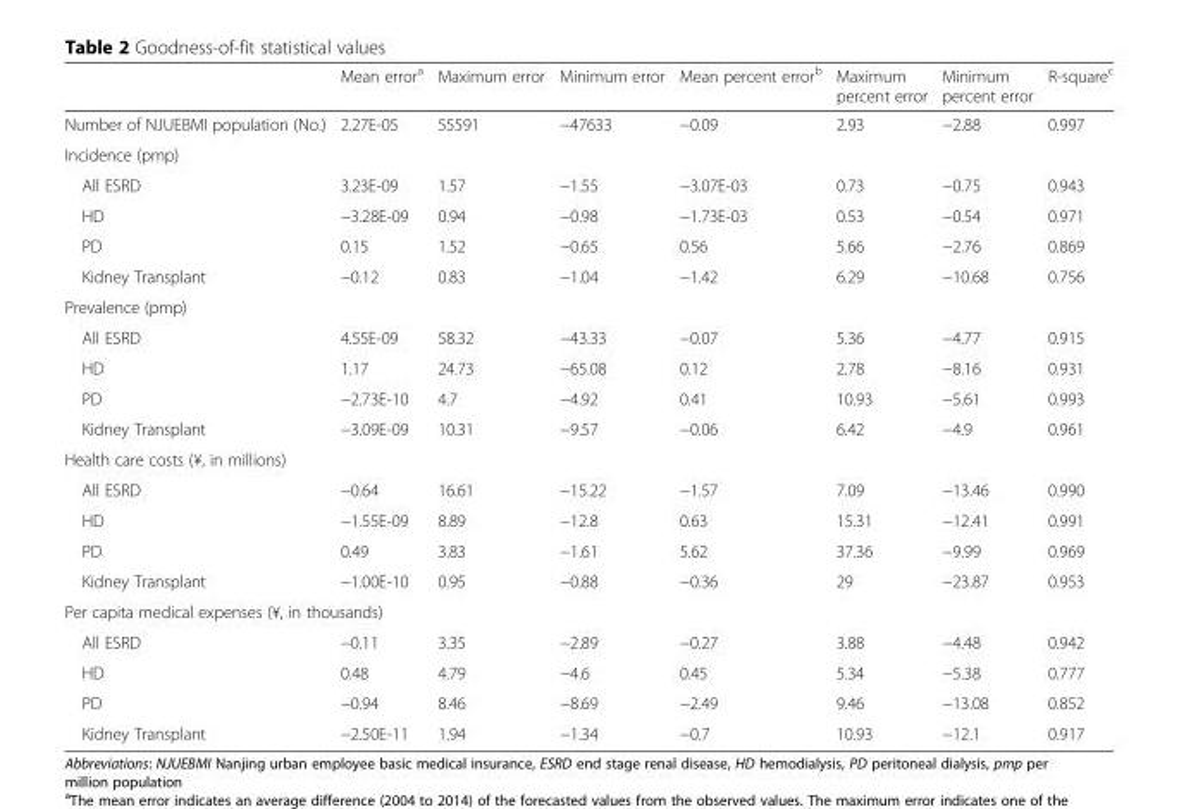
<table><thead><tr><td></td><td>Mean error<sup>a</sup></td><td>Maximum error</td><td>Minimum error</td><td>Mean percent error<sup>b</sup></td><td>Maximum percent error</td><td>Minimum percent error</td><td>R-square<sup>c</sup></td></tr></thead><tbody><tr><td>Number of NJUEBMI population (No.)</td><td>2.27E-05</td><td>55591</td><td>−47633</td><td>−0.09</td><td>2.93</td><td>−2.88</td><td>0.997</td></tr><tr><td colspan="8">Incidence (pmp)</td></tr><tr><td>All ESRD</td><td>3.23E-09</td><td>1.57</td><td>−1.55</td><td>−3.07E-03</td><td>0.73</td><td>−0.75</td><td>0.943</td></tr><tr><td>HD</td><td>−3.28E-09</td><td>0.94</td><td>−0.98</td><td>−1.73E-03</td><td>0.53</td><td>−0.54</td><td>0.971</td></tr><tr><td>PD</td><td>0.15</td><td>1.52</td><td>−0.65</td><td>0.56</td><td>5.66</td><td>−2.76</td><td>0.869</td></tr><tr><td>Kidney Transplant</td><td>−0.12</td><td>0.83</td><td>−1.04</td><td>−1.42</td><td>6.29</td><td>−10.68</td><td>0.756</td></tr><tr><td colspan="8">Prevalence (pmp)</td></tr><tr><td>All ESRD</td><td>4.55E-09</td><td>58.32</td><td>−43.33</td><td>−0.07</td><td>5.36</td><td>−4.77</td><td>0.915</td></tr><tr><td>HD</td><td>1.17</td><td>24.73</td><td>−65.08</td><td>0.12</td><td>2.78</td><td>−8.16</td><td>0.931</td></tr><tr><td>PD</td><td>−2.73E-10</td><td>4.7</td><td>−4.92</td><td>0.41</td><td>10.93</td><td>−5.61</td><td>0.993</td></tr><tr><td>Kidney Transplant</td><td>−3.09E-09</td><td>10.31</td><td>−9.57</td><td>−0.06</td><td>6.42</td><td>−4.9</td><td>0.961</td></tr><tr><td colspan="8">Health care costs (¥, in millions)</td></tr><tr><td>All ESRD</td><td>−0.64</td><td>16.61</td><td>−15.22</td><td>−1.57</td><td>7.09</td><td>−13.46</td><td>0.990</td></tr><tr><td>HD</td><td>−1.55E-09</td><td>8.89</td><td>−12.8</td><td>0.63</td><td>15.31</td><td>−12.41</td><td>0.991</td></tr><tr><td>PD</td><td>0.49</td><td>3.83</td><td>−1.61</td><td>5.62</td><td>37.36</td><td>−9.99</td><td>0.969</td></tr><tr><td>Kidney Transplant</td><td>−1.00E-10</td><td>0.95</td><td>−0.88</td><td>−0.36</td><td>29</td><td>−23.87</td><td>0.953</td></tr><tr><td colspan="8">Per capita medical expenses (¥, in thousands)</td></tr><tr><td>All ESRD</td><td>−0.11</td><td>3.35</td><td>−2.89</td><td>−0.27</td><td>3.88</td><td>−4.48</td><td>0.942</td></tr><tr><td>HD</td><td>0.48</td><td>4.79</td><td>−4.6</td><td>0.45</td><td>5.34</td><td>−5.38</td><td>0.777</td></tr><tr><td>PD</td><td>−0.94</td><td>8.46</td><td>−8.69</td><td>−2.49</td><td>9.46</td><td>−13.08</td><td>0.852</td></tr><tr><td>Kidney Transplant</td><td>−2.50E-11</td><td>1.94</td><td>−1.34</td><td>−0.7</td><td>10.93</td><td>−12.1</td><td>0.917</td></tr></tbody></table>